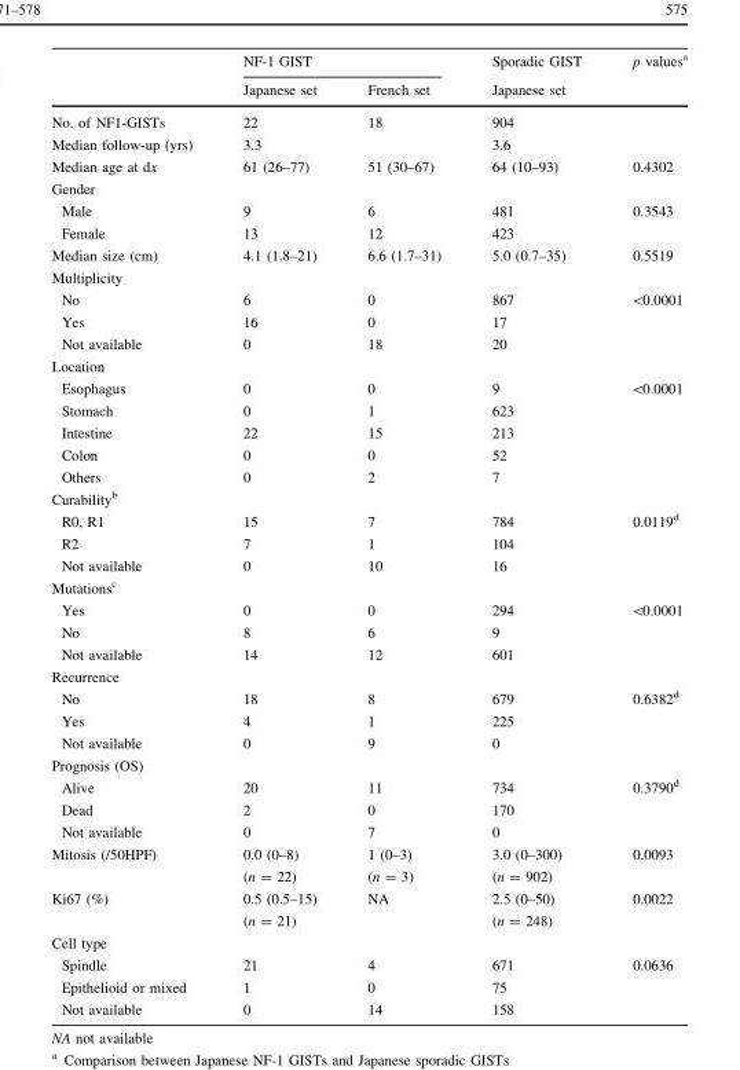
<table><thead><tr><td rowspan="2"></td><td colspan="2">NF-1 GIST</td><td rowspan="2">Sporadic GIST Japanese set</td><td rowspan="2">p values<sup>a</sup></td></tr><tr><td>Japanese set</td><td>French set</td></tr></thead><tbody><tr><td>No. of NF1-GISTs</td><td>22</td><td>18</td><td>904</td><td></td></tr><tr><td>Median follow-up (yrs)</td><td>3.3</td><td></td><td>3.6</td><td></td></tr><tr><td>Median age at dx</td><td>61 (26–77)</td><td>51 (30–67)</td><td>64 (10–93)</td><td>0.4302</td></tr><tr><td colspan="5">Gender</td></tr><tr><td>Male</td><td>9</td><td>6</td><td>481</td><td>0.3543</td></tr><tr><td>Female</td><td>13</td><td>12</td><td>423</td><td></td></tr><tr><td>Median size (cm)</td><td>4.1 (1.8–21)</td><td>6.6 (1.7–31)</td><td>5.0 (0.7–35)</td><td>0.5519</td></tr><tr><td colspan="5">Multiplicity</td></tr><tr><td>No</td><td>6</td><td>0</td><td>867</td><td>&lt;0.0001</td></tr><tr><td>Yes</td><td>16</td><td>0</td><td>17</td><td></td></tr><tr><td>Not available</td><td>0</td><td>18</td><td>20</td><td></td></tr><tr><td colspan="5">Location</td></tr><tr><td>Esophagus</td><td>0</td><td>0</td><td>9</td><td>&lt;0.0001</td></tr><tr><td>Stomach</td><td>0</td><td>1</td><td>623</td><td></td></tr><tr><td>Intestine</td><td>22</td><td>15</td><td>213</td><td></td></tr><tr><td>Colon</td><td>0</td><td>0</td><td>52</td><td></td></tr><tr><td>Others</td><td>0</td><td>2</td><td>7</td><td></td></tr><tr><td colspan="5">Curability<sup>b</sup></td></tr><tr><td>R0, R1</td><td>15</td><td>7</td><td>784</td><td>0.0119<sup>d</sup></td></tr><tr><td>R2</td><td>7</td><td>1</td><td>104</td><td></td></tr><tr><td>Not available</td><td>0</td><td>10</td><td>16</td><td></td></tr><tr><td colspan="5">Mutations<sup>c</sup></td></tr><tr><td>Yes</td><td>0</td><td>0</td><td>294</td><td>&lt;0.0001</td></tr><tr><td>No</td><td>8</td><td>6</td><td>9</td><td></td></tr><tr><td>Not available</td><td>14</td><td>12</td><td>601</td><td></td></tr><tr><td colspan="5">Recurrence</td></tr><tr><td>No</td><td>18</td><td>8</td><td>679</td><td>0.6382<sup>d</sup></td></tr><tr><td>Yes</td><td>4</td><td>1</td><td>225</td><td></td></tr><tr><td>Not available</td><td>0</td><td>9</td><td>0</td><td></td></tr><tr><td colspan="5">Prognosis (OS)</td></tr><tr><td>Alive</td><td>20</td><td>11</td><td>734</td><td>0.3790<sup>d</sup></td></tr><tr><td>Dead</td><td>2</td><td>0</td><td>170</td><td></td></tr><tr><td>Not available</td><td>0</td><td>7</td><td>0</td><td></td></tr><tr><td rowspan="2">Mitosis (/50HPF)</td><td>0.0 (0–8)</td><td>1 (0–3)</td><td>3.0 (0–300)</td><td>0.0093</td></tr><tr><td>(n = 22)</td><td>(n = 3)</td><td>(n = 902)</td><td></td></tr><tr><td rowspan="2">Ki67 (%)</td><td>0.5 (0.5–15)</td><td>NA</td><td>2.5 (0–50)</td><td>0.0022</td></tr><tr><td>(n = 21)</td><td></td><td>(n = 248)</td><td></td></tr><tr><td colspan="5">Cell type</td></tr><tr><td>Spindle</td><td>21</td><td>4</td><td>671</td><td>0.0636</td></tr><tr><td>Epithelioid or mixed</td><td>1</td><td>0</td><td>75</td><td></td></tr><tr><td>Not available</td><td>0</td><td>14</td><td>158</td><td></td></tr></tbody></table>